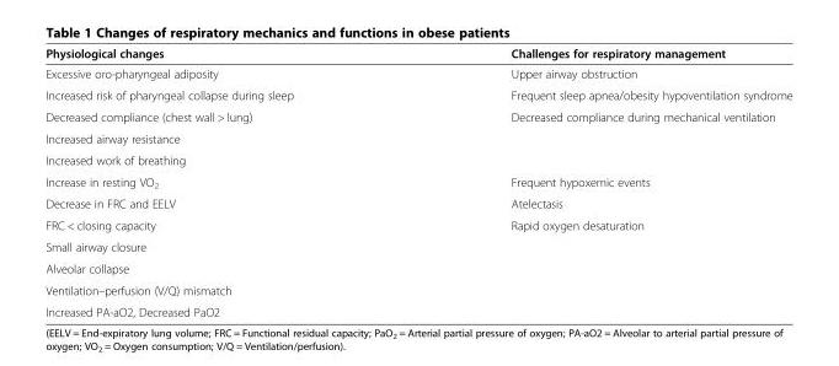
<table><thead><tr><td>Physiological changes</td><td>Challenges for respiratory management</td></tr></thead><tbody><tr><td>Excessive oro-pharyngeal adiposity</td><td>Upper airway obstruction</td></tr><tr><td>Increased risk of pharyngeal collapse during sleep</td><td>Frequent sleep apnea/obesity hypoventilation syndrome</td></tr><tr><td>Decreased compliance (chest wall &gt; lung)</td><td>Decreased compliance during mechanical ventilation</td></tr><tr><td colspan="2">Increased airway resistance</td></tr><tr><td colspan="2">Increased work of breathing</td></tr><tr><td>Increase in resting VO<sub>2</sub></td><td>Frequent hypoxemic events</td></tr><tr><td>Decrease in FRC and EELV</td><td>Atelectasis</td></tr><tr><td>FRC &lt; closing capacity</td><td>Rapid oxygen desaturation</td></tr><tr><td colspan="2">Small airway closure</td></tr><tr><td colspan="2">Alveolar collapse</td></tr><tr><td colspan="2">Ventilation–perfusion (V/Q) mismatch</td></tr><tr><td>Increased PA-aO2, Decreased PaO2</td><td></td></tr></tbody></table>